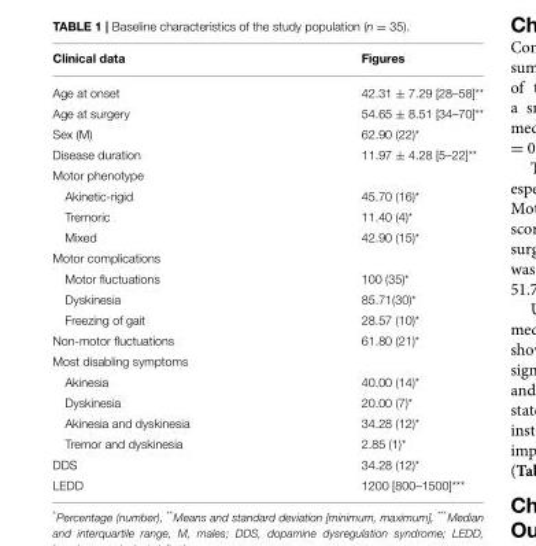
<table><thead><tr><td>Clinical data</td><td>Figures</td></tr></thead><tbody><tr><td>Age at onset</td><td>42.31 ± 7.29 [28–58]**</td></tr><tr><td>Age at surgery</td><td>54.65 ± 8.51 [34–70]**</td></tr><tr><td>Sex (M)</td><td>62.90 (22)*</td></tr><tr><td>Disease duration</td><td>11.97 ± 4.28 [5–22]**</td></tr><tr><td colspan="2">Motor phenotype</td></tr><tr><td>Akinetic-rigid</td><td>45.70 (16)*</td></tr><tr><td>Tremoric</td><td>11.40 (4)*</td></tr><tr><td>Mixed</td><td>42.90 (15)*</td></tr><tr><td colspan="2">Motor complications</td></tr><tr><td>Motor fluctuations</td><td>100 (35)*</td></tr><tr><td>Dyskinesia</td><td>85.71(30)*</td></tr><tr><td>Freezing of gait</td><td>28.57 (10)*</td></tr><tr><td>Non-motor fluctuations</td><td>61.80 (21)*</td></tr><tr><td colspan="2">Most disabling symptoms</td></tr><tr><td>Akinesia</td><td>40.00 (14)*</td></tr><tr><td>Dyskinesia</td><td>20.00 (7)*</td></tr><tr><td>Akinesia and dyskinesia</td><td>34.28 (12)*</td></tr><tr><td>Tremor and dyskinesia</td><td>2.85 (1)*</td></tr><tr><td>DDS</td><td>34.28 (12)*</td></tr><tr><td>LEDD</td><td>1200 [800–1500]***</td></tr></tbody></table>